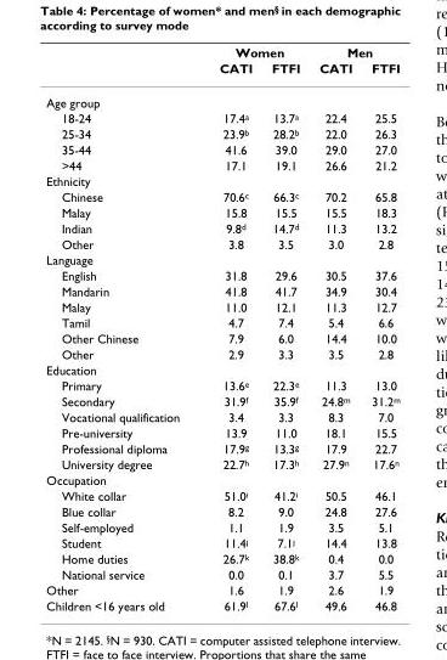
<table><thead><tr><td rowspan="2"></td><td colspan="2">Women</td><td colspan="2">Men</td></tr><tr><td>CATI</td><td>FTFI</td><td>CATI</td><td>FTFI</td></tr></thead><tbody><tr><td colspan="5">Age group</td></tr><tr><td>18-24</td><td>17.4<sup>a</sup></td><td>13.7<sup>a</sup></td><td>22.4</td><td>25.5</td></tr><tr><td>25-34</td><td>23.9<sup>b</sup></td><td>28.2<sup>b</sup></td><td>22.0</td><td>26.3</td></tr><tr><td>35-44</td><td>41.6</td><td>39.0</td><td>29.0</td><td>27.0</td></tr><tr><td>&gt;44</td><td>17.1</td><td>19.1</td><td>26.6</td><td>21.2</td></tr><tr><td colspan="5">Ethnicity</td></tr><tr><td>Chinese</td><td>70.6<sup>c</sup></td><td>66.3<sup>c</sup></td><td>70.2</td><td>65.8</td></tr><tr><td>Malay</td><td>15.8</td><td>15.5</td><td>15.5</td><td>18.3</td></tr><tr><td>Indian</td><td>9.8<sup>d</sup></td><td>14.7<sup>d</sup></td><td>11.3</td><td>13.2</td></tr><tr><td>Other</td><td>3.8</td><td>3.5</td><td>3.0</td><td>2.8</td></tr><tr><td colspan="5">Language</td></tr><tr><td>English</td><td>31.8</td><td>29.6</td><td>30.5</td><td>37.6</td></tr><tr><td>Mandarin</td><td>41.8</td><td>41.7</td><td>34.9</td><td>30.4</td></tr><tr><td>Malay</td><td>11.0</td><td>12.1</td><td>11.3</td><td>12.7</td></tr><tr><td>Tamil</td><td>4.7</td><td>7.4</td><td>5.4</td><td>6.6</td></tr><tr><td>Other Chinese</td><td>7.9</td><td>6.0</td><td>14.4</td><td>10.0</td></tr><tr><td>Other</td><td>2.9</td><td>3.3</td><td>3.5</td><td>2.8</td></tr><tr><td colspan="5">Education</td></tr><tr><td>Primary</td><td>13.6<sup>e</sup></td><td>22.3<sup>e</sup></td><td>11.3</td><td>13.0</td></tr><tr><td>Secondary</td><td>31.9<sup>f</sup></td><td>35.9<sup>f</sup></td><td>24.8<sup>m</sup></td><td>31.2<sup>m</sup></td></tr><tr><td>Vocational qualification</td><td>3.4</td><td>3.3</td><td>8.3</td><td>7.0</td></tr><tr><td>Pre-university</td><td>13.9</td><td>11.0</td><td>18.1</td><td>15.5</td></tr><tr><td>Professional diploma</td><td>17.9<sup>g</sup></td><td>13.3<sup>g</sup></td><td>17.9</td><td>22.7</td></tr><tr><td>University degree</td><td>22.7<sup>h</sup></td><td>17.3<sup>h</sup></td><td>27.9<sup>n</sup></td><td>17.6<sup>n</sup></td></tr><tr><td colspan="5">Occupation</td></tr><tr><td>White collar</td><td>51.0<sup>i</sup></td><td>41.2<sup>i</sup></td><td>50.5</td><td>46.1</td></tr><tr><td>Blue collar</td><td>8.2</td><td>9.0</td><td>24.8</td><td>27.6</td></tr><tr><td>Self-employed</td><td>1.1</td><td>1.9</td><td>3.5</td><td>5.1</td></tr><tr><td>Student</td><td>11.4<sup>j</sup></td><td>7.1<sup>j</sup></td><td>14.4</td><td>13.8</td></tr><tr><td>Home duties</td><td>26.7<sup>k</sup></td><td>38.8<sup>k</sup></td><td>0.4</td><td>0.0</td></tr><tr><td>National service</td><td>0.0</td><td>0.1</td><td>3.7</td><td>5.5</td></tr><tr><td>Other</td><td>1.6</td><td>1.9</td><td>2.6</td><td>1.9</td></tr><tr><td>Children &lt;16 years old</td><td>61.9<sup>l</sup></td><td>67.6<sup>l</sup></td><td>49.6</td><td>46.8</td></tr></tbody></table>